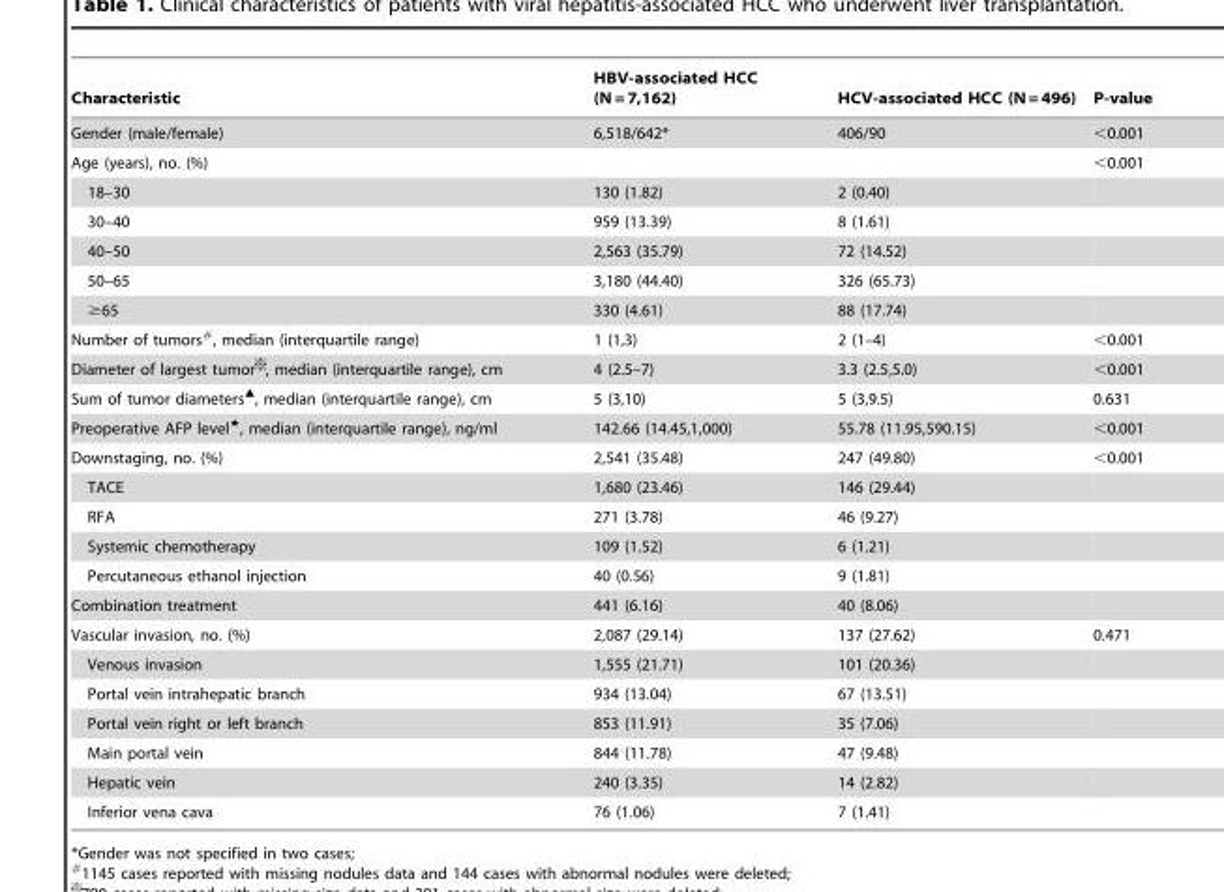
<table><thead><tr><td>Characteristic</td><td>HBV-associated HCC (N = 7,162)</td><td>HCV-associated HCC (N = 496)</td><td>P-value</td></tr></thead><tbody><tr><td>Gender (male/female)</td><td>6,518/642*</td><td>406/90</td><td>&lt;0.001</td></tr><tr><td>Age (years), no. (%)</td><td></td><td></td><td>&lt;0.001</td></tr><tr><td>18–30</td><td>130 (1.82)</td><td>2 (0.40)</td><td></td></tr><tr><td>30–40</td><td>959 (13.39)</td><td>8 (1.61)</td><td></td></tr><tr><td>40–50</td><td>2,563 (35.79)</td><td>72 (14.52)</td><td></td></tr><tr><td>50–65</td><td>3,180 (44.40)</td><td>326 (65.73)</td><td></td></tr><tr><td>≥65</td><td>330 (4.61)</td><td>88 (17.74)</td><td></td></tr><tr><td>Number of tumors#, median (interquartile range)</td><td>1 (1,3)</td><td>2 (1–4)</td><td>&lt;0.001</td></tr><tr><td>Diameter of largest tumor , median (interquartile range), cm</td><td>4 (2.5–7)</td><td>3.3 (2.5,5.0)</td><td>&lt;0.001</td></tr><tr><td>Sum of tumor diameters▴, median (interquartile range), cm</td><td>5 (3,10)</td><td>5 (3,9.5)</td><td>0.631</td></tr><tr><td>Preoperative AFP level★, median (interquartile range), ng/ml</td><td>142.66 (14.45,1,000)</td><td>55.78 (11.95,590.15)</td><td>&lt;0.001</td></tr><tr><td>Downstaging, no. (%)</td><td>2,541 (35.48)</td><td>247 (49.80)</td><td>&lt;0.001</td></tr><tr><td>TACE</td><td>1,680 (23.46)</td><td>146 (29.44)</td><td></td></tr><tr><td>RFA</td><td>271 (3.78)</td><td>46 (9.27)</td><td></td></tr><tr><td>Systemic chemotherapy</td><td>109 (1.52)</td><td>6 (1.21)</td><td></td></tr><tr><td>Percutaneous ethanol injection</td><td>40 (0.56)</td><td>9 (1.81)</td><td></td></tr><tr><td>Combination treatment</td><td>441 (6.16)</td><td>40 (8.06)</td><td></td></tr><tr><td>Vascular invasion, no. (%)</td><td>2,087 (29.14)</td><td>137 (27.62)</td><td>0.471</td></tr><tr><td>Venous invasion</td><td>1,555 (21.71)</td><td>101 (20.36)</td><td></td></tr><tr><td>Portal vein intrahepatic branch</td><td>934 (13.04)</td><td>67 (13.51)</td><td></td></tr><tr><td>Portal vein right or left branch</td><td>853 (11.91)</td><td>35 (7.06)</td><td></td></tr><tr><td>Main portal vein</td><td>844 (11.78)</td><td>47 (9.48)</td><td></td></tr><tr><td>Hepatic vein</td><td>240 (3.35)</td><td>14 (2.82)</td><td></td></tr><tr><td>Inferior vena cava</td><td>76 (1.06)</td><td>7 (1.41)</td><td></td></tr></tbody></table>